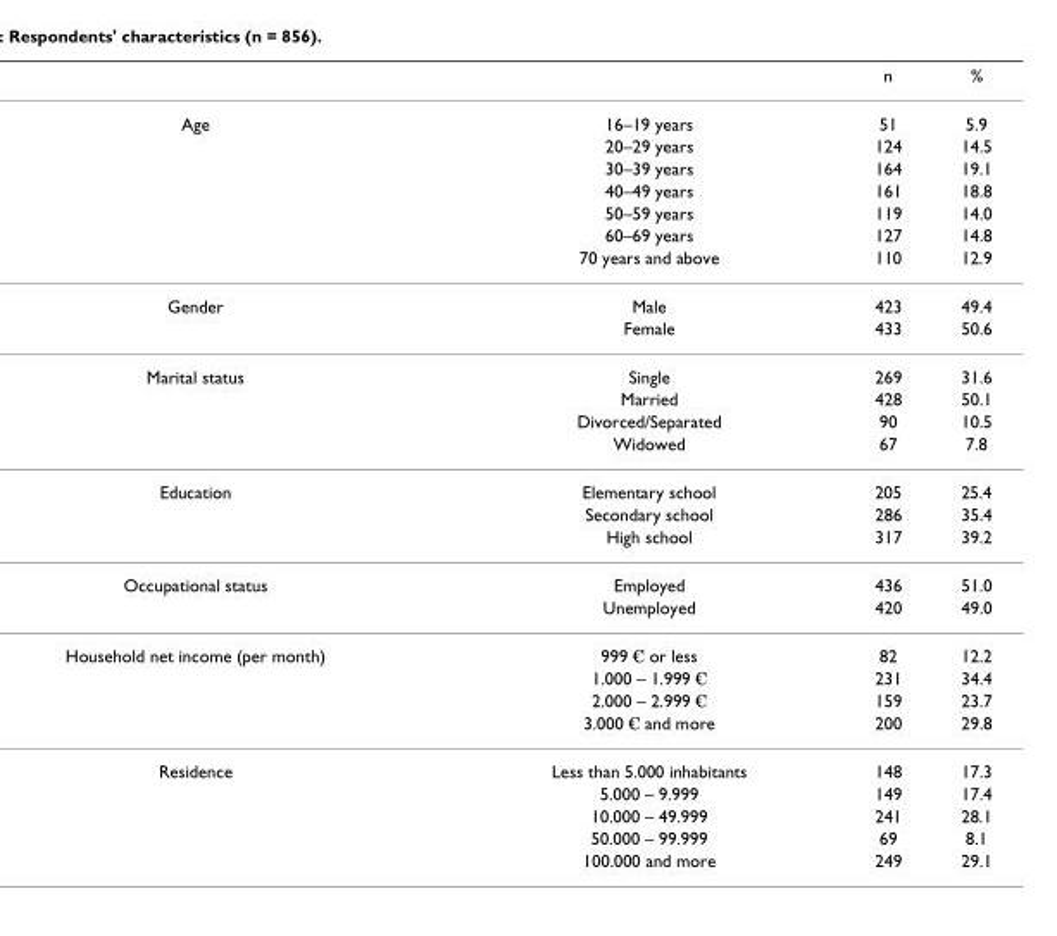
<table><thead><tr><td></td><td></td><td>n</td><td>%</td></tr></thead><tbody><tr><td rowspan="7">Age</td><td>16–19 years</td><td>51</td><td>5.9</td></tr><tr><td>20–29 years</td><td>124</td><td>14.5</td></tr><tr><td>30–39 years</td><td>164</td><td>19.1</td></tr><tr><td>40–49 years</td><td>161</td><td>18.8</td></tr><tr><td>50–59 years</td><td>119</td><td>14.0</td></tr><tr><td>60–69 years</td><td>127</td><td>14.8</td></tr><tr><td>70 years and above</td><td>110</td><td>12.9</td></tr><tr><td rowspan="2">Gender</td><td>Male</td><td>423</td><td>49.4</td></tr><tr><td>Female</td><td>433</td><td>50.6</td></tr><tr><td rowspan="4">Marital status</td><td>Single</td><td>269</td><td>31.6</td></tr><tr><td>Married</td><td>428</td><td>50.1</td></tr><tr><td>Divorced/Separated</td><td>90</td><td>10.5</td></tr><tr><td>Widowed</td><td>67</td><td>7.8</td></tr><tr><td rowspan="3">Education</td><td>Elementary school</td><td>205</td><td>25.4</td></tr><tr><td>Secondary school</td><td>286</td><td>35.4</td></tr><tr><td>High school</td><td>317</td><td>39.2</td></tr><tr><td rowspan="2">Occupational status</td><td>Employed</td><td>436</td><td>51.0</td></tr><tr><td>Unemployed</td><td>420</td><td>49.0</td></tr><tr><td rowspan="4">Household net income (per month)</td><td>999 € or less</td><td>82</td><td>12.2</td></tr><tr><td>1.000 – 1.999 €</td><td>231</td><td>34.4</td></tr><tr><td>2.000 – 2.999 €</td><td>159</td><td>23.7</td></tr><tr><td>3.000 € and more</td><td>200</td><td>29.8</td></tr><tr><td rowspan="5">Residence</td><td>Less than 5.000 inhabitants</td><td>148</td><td>17.3</td></tr><tr><td>5.000 – 9.999</td><td>149</td><td>17.4</td></tr><tr><td>10.000 – 49.999</td><td>241</td><td>28.1</td></tr><tr><td>50.000 – 99.999</td><td>69</td><td>8.1</td></tr><tr><td>100.000 and more</td><td>249</td><td>29.1</td></tr></tbody></table>